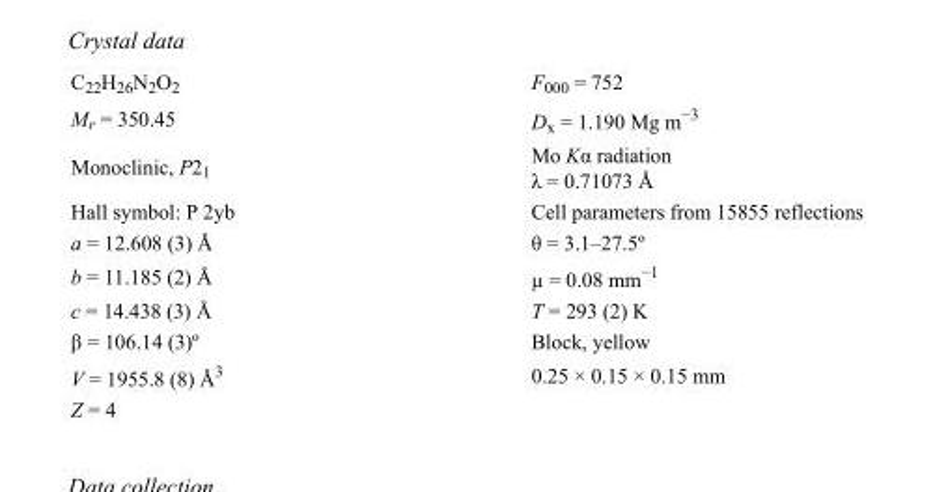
<table><tbody><tr><td>C<sub>22</sub>H<sub>26</sub>N<sub>2</sub>O<sub>2</sub></td><td>F<sub>000</sub> = 752</td></tr><tr><td>M<sub>r</sub> = 350.45</td><td>D<sub>x</sub> = 1.190 Mg m<sup>−3</sup></td></tr><tr><td>Monoclinic, P2<sub>1</sub></td><td>Mo Kα radiation λ = 0.71073 Å</td></tr><tr><td>Hall symbol: P 2yb</td><td>Cell parameters from 15855 reflections</td></tr><tr><td>a = 12.608 (3) Å</td><td>θ = 3.1–27.5º</td></tr><tr><td>b = 11.185 (2) Å</td><td>µ = 0.08 mm<sup>−1</sup></td></tr><tr><td>c = 14.438 (3) Å</td><td>T = 293 (2) K</td></tr><tr><td>β = 106.14 (3)º</td><td>Block, yellow</td></tr><tr><td>V = 1955.8 (8) Å<sup>3</sup></td><td>0.25 × 0.15 × 0.15 mm</td></tr><tr><td>Z = 4</td><td></td></tr></tbody></table>